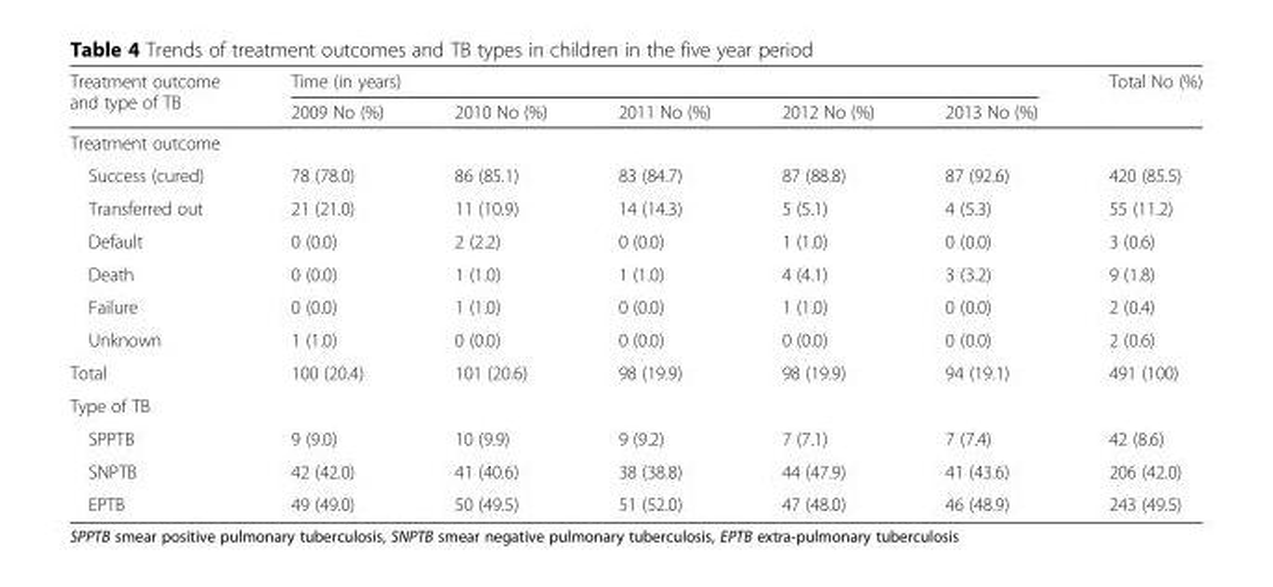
<table><thead><tr><td rowspan="2">Treatment outcome and type of TB</td><td colspan="5">Time (in years)</td><td rowspan="2">Total No (%)</td></tr><tr><td>2009 No (%)</td><td>2010 No (%)</td><td>2011 No (%)</td><td>2012 No (%)</td><td>2013 No (%)</td></tr></thead><tbody><tr><td colspan="7">Treatment outcome</td></tr><tr><td>Success (cured)</td><td>78 (78.0)</td><td>86 (85.1)</td><td>83 (84.7)</td><td>87 (88.8)</td><td>87 (92.6)</td><td>420 (85.5)</td></tr><tr><td>Transferred out</td><td>21 (21.0)</td><td>11 (10.9)</td><td>14 (14.3)</td><td>5 (5.1)</td><td>4 (5.3)</td><td>55 (11.2)</td></tr><tr><td>Default</td><td>0 (0.0)</td><td>2 (2.2)</td><td>0 (0.0)</td><td>1 (1.0)</td><td>0 (0.0)</td><td>3 (0.6)</td></tr><tr><td>Death</td><td>0 (0.0)</td><td>1 (1.0)</td><td>1 (1.0)</td><td>4 (4.1)</td><td>3 (3.2)</td><td>9 (1.8)</td></tr><tr><td>Failure</td><td>0 (0.0)</td><td>1 (1.0)</td><td>0 (0.0)</td><td>1 (1.0)</td><td>0 (0.0)</td><td>2 (0.4)</td></tr><tr><td>Unknown</td><td>1 (1.0)</td><td>0 (0.0)</td><td>0 (0.0)</td><td>0 (0.0)</td><td>0 (0.0)</td><td>2 (0.6)</td></tr><tr><td>Total</td><td>100 (20.4)</td><td>101 (20.6)</td><td>98 (19.9)</td><td>98 (19.9)</td><td>94 (19.1)</td><td>491 (100)</td></tr><tr><td colspan="7">Type of TB</td></tr><tr><td>SPPTB</td><td>9 (9.0)</td><td>10 (9.9)</td><td>9 (9.2)</td><td>7 (7.1)</td><td>7 (7.4)</td><td>42 (8.6)</td></tr><tr><td>SNPTB</td><td>42 (42.0)</td><td>41 (40.6)</td><td>38 (38.8)</td><td>44 (47.9)</td><td>41 (43.6)</td><td>206 (42.0)</td></tr><tr><td>EPTB</td><td>49 (49.0)</td><td>50 (49.5)</td><td>51 (52.0)</td><td>47 (48.0)</td><td>46 (48.9)</td><td>243 (49.5)</td></tr></tbody></table>